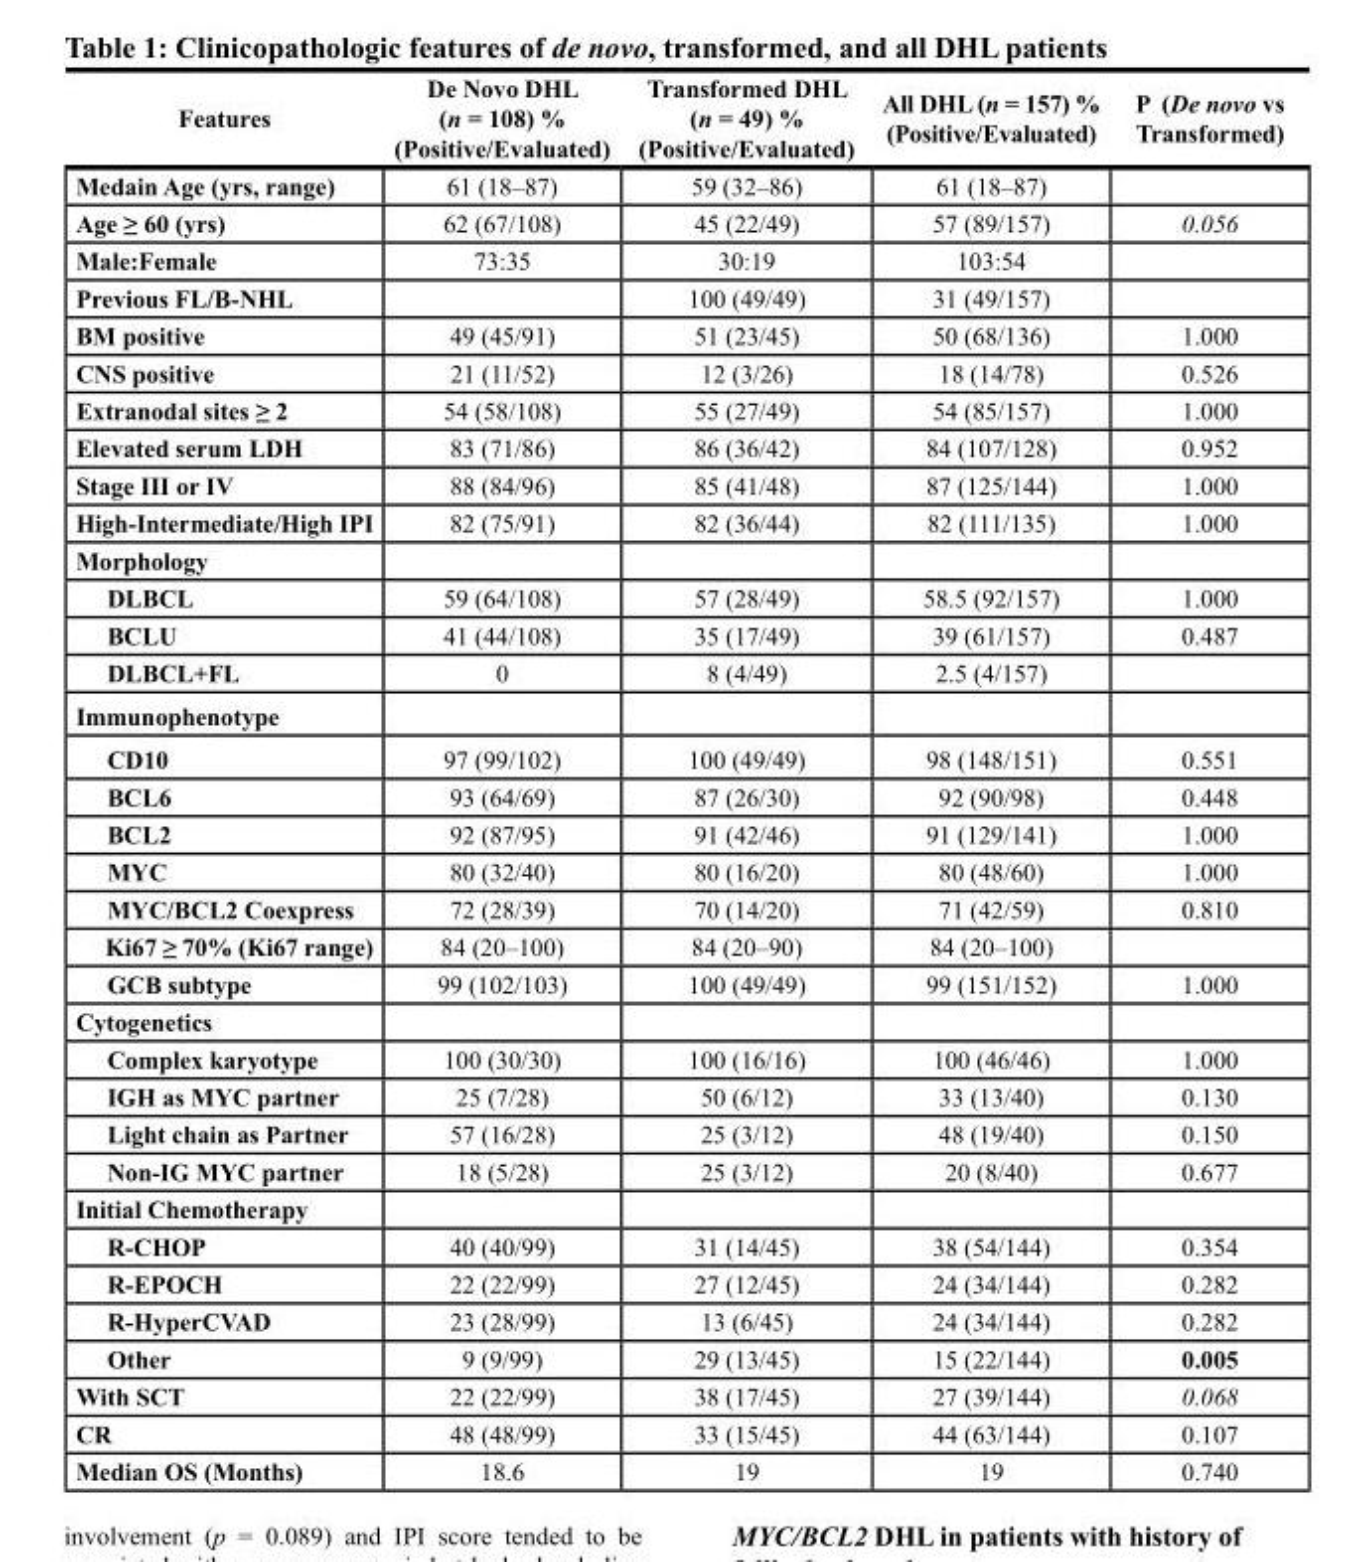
<table><thead><tr><td>Features</td><td>De Novo DHL (n = 108) % (Positive/Evaluated)</td><td>transformed DHL (n = 49) % (Positive/Evaluated)</td><td>All DHL (n = 157) % (Positive/Evaluated)</td><td>P (De novo vs transformed)</td></tr></thead><tbody><tr><td>Medain Age (yrs, range)</td><td>61 (18–87)</td><td>59 (32–86)</td><td>61 (18–87)</td><td></td></tr><tr><td>Age ≥ 60 (yrs)</td><td>62 (67/108)</td><td>45 (22/49)</td><td>57 (89/157)</td><td>0.056</td></tr><tr><td>Male:Female</td><td>73:35</td><td>30:19</td><td>103:54</td><td></td></tr><tr><td>Previous FL/b-NHL</td><td></td><td>100 (49/49)</td><td>31 (49/157)</td><td></td></tr><tr><td>bM positive</td><td>49 (45/91)</td><td>51 (23/45)</td><td>50 (68/136)</td><td>1.000</td></tr><tr><td>cNs positive</td><td>21 (11/52)</td><td>12 (3/26)</td><td>18 (14/78)</td><td>0.526</td></tr><tr><td>Extranodal sites ≥ 2</td><td>54 (58/108)</td><td>55 (27/49)</td><td>54 (85/157)</td><td>1.000</td></tr><tr><td>Elevated serum LDH</td><td>83 (71/86)</td><td>86 (36/42)</td><td>84 (107/128)</td><td>0.952</td></tr><tr><td>stage III or IV</td><td>88 (84/96)</td><td>85 (41/48)</td><td>87 (125/144)</td><td>1.000</td></tr><tr><td>High-Intermediate/High IPI</td><td>82 (75/91)</td><td>82 (36/44)</td><td>82 (111/135)</td><td>1.000</td></tr><tr><td colspan="5">Morphology</td></tr><tr><td>DLbcL</td><td>59 (64/108)</td><td>57 (28/49)</td><td>58.5 (92/157)</td><td>1.000</td></tr><tr><td>bcLU</td><td>41 (44/108)</td><td>35 (17/49)</td><td>39 (61/157)</td><td>0.487</td></tr><tr><td>DLbcL+FL</td><td>0</td><td>8 (4/49)</td><td>2.5 (4/157)</td><td></td></tr><tr><td colspan="5">Immunophenotype</td></tr><tr><td>cD10</td><td>97 (99/102)</td><td>100 (49/49)</td><td>98 (148/151)</td><td>0.551</td></tr><tr><td>BCL6</td><td>93 (64/69)</td><td>87 (26/30)</td><td>92 (90/98)</td><td>0.448</td></tr><tr><td>BCL2</td><td>92 (87/95)</td><td>91 (42/46)</td><td>91 (129/141)</td><td>1.000</td></tr><tr><td>MYc</td><td>80 (32/40)</td><td>80 (16/20)</td><td>80 (48/60)</td><td>1.000</td></tr><tr><td>MYC/BCL2 Coexpress</td><td>72 (28/39)</td><td>70 (14/20)</td><td>71 (42/59)</td><td>0.810</td></tr><tr><td>Ki67 ≥ 70% (Ki67 range)</td><td>84 (20–100)</td><td>84 (20–90)</td><td>84 (20–100)</td><td></td></tr><tr><td>Gcb subtype</td><td>99 (102/103)</td><td>100 (49/49)</td><td>99 (151/152)</td><td>1.000</td></tr><tr><td colspan="5">cytogenetics</td></tr><tr><td>complex karyotype</td><td>100 (30/30)</td><td>100 (16/16)</td><td>100 (46/46)</td><td>1.000</td></tr><tr><td>IGH as MYc partner</td><td>25 (7/28)</td><td>50 (6/12)</td><td>33 (13/40)</td><td>0.130</td></tr><tr><td>Light chain as Partner</td><td>57 (16/28)</td><td>25 (3/12)</td><td>48 (19/40)</td><td>0.150</td></tr><tr><td>Non-IG MYc partner</td><td>18 (5/28)</td><td>25 (3/12)</td><td>20 (8/40)</td><td>0.677</td></tr><tr><td colspan="5">Initial chemotherapy</td></tr><tr><td>r-cHOP</td><td>40 (40/99)</td><td>31 (14/45)</td><td>38 (54/144)</td><td>0.354</td></tr><tr><td>r-EPOcH</td><td>22 (22/99)</td><td>27 (12/45)</td><td>24 (34/144)</td><td>0.282</td></tr><tr><td>r-HypercVAD</td><td>23 (28/99)</td><td>13 (6/45)</td><td>24 (34/144)</td><td>0.282</td></tr><tr><td>Other</td><td>9 (9/99)</td><td>29 (13/45)</td><td>15 (22/144)</td><td>0.005</td></tr><tr><td>With sct</td><td>22 (22/99)</td><td>38 (17/45)</td><td>27 (39/144)</td><td>0.068</td></tr><tr><td>cr</td><td>48 (48/99)</td><td>33 (15/45)</td><td>44 (63/144)</td><td>0.107</td></tr><tr><td>Median Os (Months)</td><td>18.6</td><td>19</td><td>19</td><td>0.740</td></tr></tbody></table>